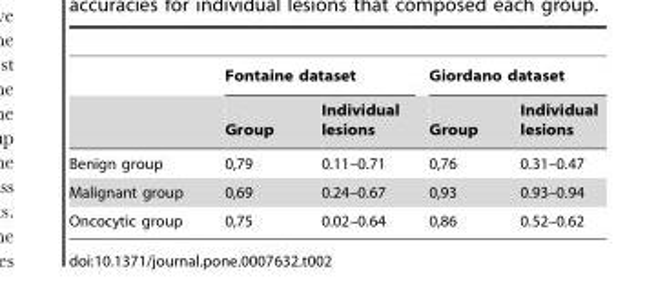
<table><thead><tr><td rowspan="2"></td><td colspan="2">Fontaine dataset</td><td colspan="2">Giordano dataset</td></tr><tr><td>Group</td><td>Individual lesions</td><td>Group</td><td>Individual lesions</td></tr></thead><tbody><tr><td>Benign group</td><td>0,79</td><td>0.11–0.71</td><td>0,76</td><td>0.31–0.47</td></tr><tr><td>Malignant group</td><td>0,69</td><td>0.24–0.67</td><td>0,93</td><td>0.93–0.94</td></tr><tr><td>Oncocytic group</td><td>0,75</td><td>0.02–0.64</td><td>0,86</td><td>0.52–0.62</td></tr></tbody></table>